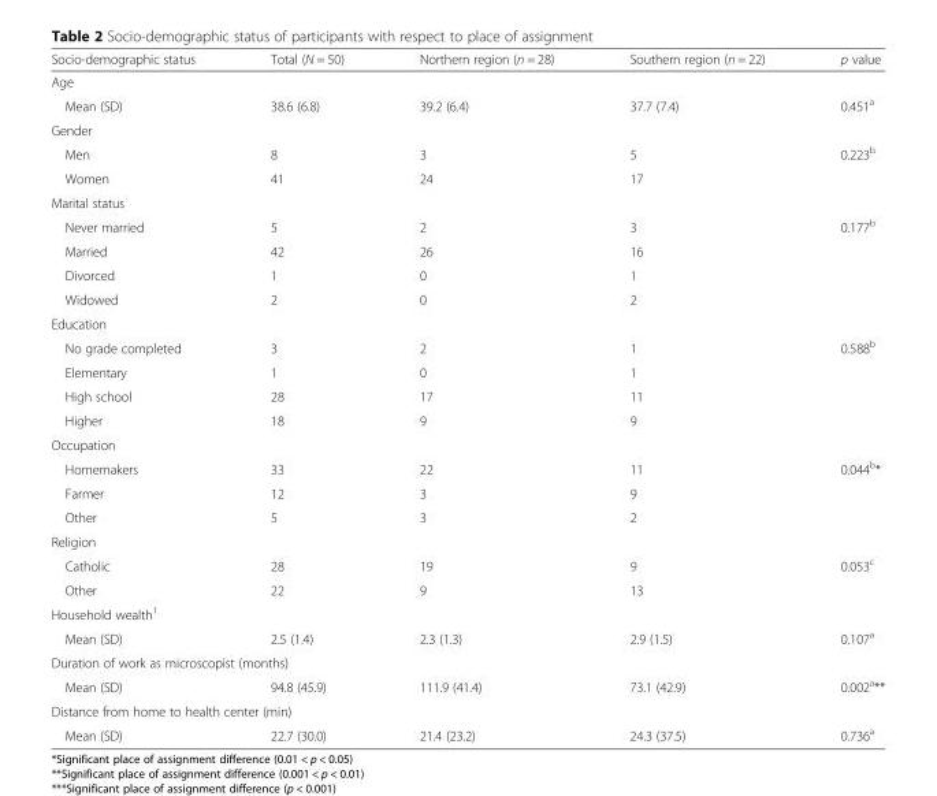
<table><thead><tr><td>Socio-demographic status</td><td>Total (N = 50)</td><td>Northern region (n = 28)</td><td>Southern region (n = 22)</td><td>p value</td></tr></thead><tbody><tr><td colspan="5">Age</td></tr><tr><td>Mean (SD)</td><td>38.6 (6.8)</td><td>39.2 (6.4)</td><td>37.7 (7.4)</td><td>0.451<sup>a</sup></td></tr><tr><td colspan="5">Gender</td></tr><tr><td>Men</td><td>8</td><td>3</td><td>5</td><td>0.223<sup>b</sup></td></tr><tr><td>Women</td><td>41</td><td>24</td><td>17</td><td></td></tr><tr><td colspan="5">Marital status</td></tr><tr><td>Never married</td><td>5</td><td>2</td><td>3</td><td>0.177<sup>b</sup></td></tr><tr><td>Married</td><td>42</td><td>26</td><td>16</td><td></td></tr><tr><td>Divorced</td><td>1</td><td>0</td><td>1</td><td></td></tr><tr><td>Widowed</td><td>2</td><td>0</td><td>2</td><td></td></tr><tr><td colspan="5">Education</td></tr><tr><td>No grade completed</td><td>3</td><td>2</td><td>1</td><td>0.588<sup>b</sup></td></tr><tr><td>Elementary</td><td>1</td><td>0</td><td>1</td><td></td></tr><tr><td>High school</td><td>28</td><td>17</td><td>11</td><td></td></tr><tr><td>Higher</td><td>18</td><td>9</td><td>9</td><td></td></tr><tr><td colspan="5">Occupation</td></tr><tr><td>Homemakers</td><td>33</td><td>22</td><td>11</td><td>0.044<sup>b</sup>*</td></tr><tr><td>Farmer</td><td>12</td><td>3</td><td>9</td><td></td></tr><tr><td>Other</td><td>5</td><td>3</td><td>2</td><td></td></tr><tr><td colspan="5">Religion</td></tr><tr><td>Catholic</td><td>28</td><td>19</td><td>9</td><td>0.053<sup>c</sup></td></tr><tr><td>Other</td><td>22</td><td>9</td><td>13</td><td></td></tr><tr><td colspan="5">Household wealth<sup>1</sup></td></tr><tr><td>Mean (SD)</td><td>2.5 (1.4)</td><td>2.3 (1.3)</td><td>2.9 (1.5)</td><td>0.107<sup>a</sup></td></tr><tr><td colspan="5">Duration of work as microscopist (months)</td></tr><tr><td>Mean (SD)</td><td>94.8 (45.9)</td><td>111.9 (41.4)</td><td>73.1 (42.9)</td><td>0.002<sup>a</sup>**</td></tr><tr><td colspan="5">Distance from home to health center (min)</td></tr><tr><td>Mean (SD)</td><td>22.7 (30.0)</td><td>21.4 (23.2)</td><td>24.3 (37.5)</td><td>0.736<sup>a</sup></td></tr></tbody></table>